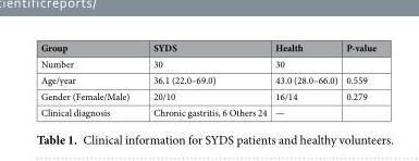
<table><thead><tr><td>Group</td><td>SYDS</td><td>Health</td><td>P-value</td></tr></thead><tbody><tr><td>Number</td><td>30</td><td>30</td><td></td></tr><tr><td>Age/year</td><td>36.1 (22.0–69.0)</td><td>43.0 (28.0–66.0)</td><td>0.559</td></tr><tr><td>Gender (Female/Male)</td><td>20/10</td><td>16/14</td><td>0.279</td></tr><tr><td>Clinical diagnosis</td><td>Chronic gastritis, 6 Others 24</td><td>—</td><td></td></tr></tbody></table>